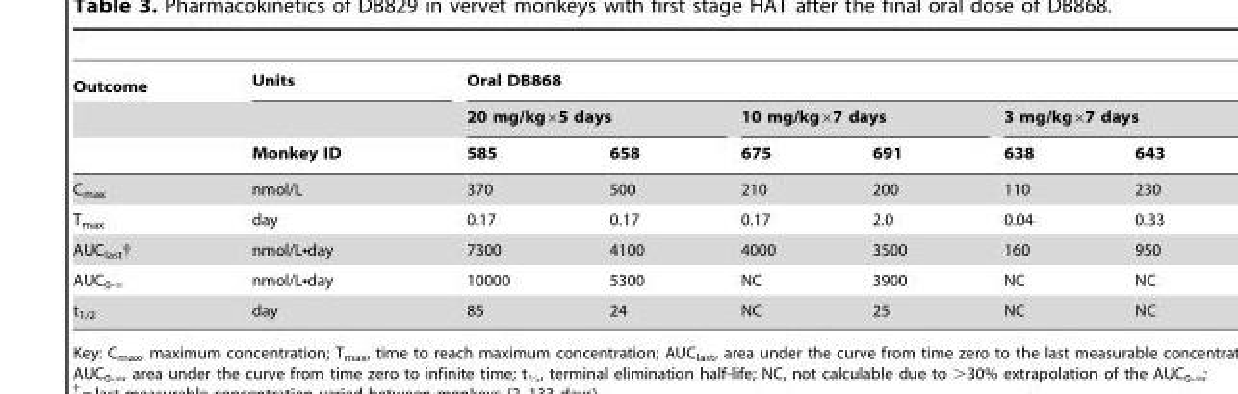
<table><thead><tr><td rowspan="3">Outcome</td><td rowspan="3">Units Monkey ID</td><td colspan="6">Oral DB868</td></tr><tr><td colspan="2">20 mg/kg×5 days</td><td colspan="2">10 mg/kg×7 days</td><td colspan="2">3 mg/kg×7 days</td></tr><tr><td>585</td><td>658</td><td>675</td><td>691</td><td>638</td><td>643</td></tr></thead><tbody><tr><td>C<sub>max</sub></td><td>nmol/L</td><td>370</td><td>500</td><td>210</td><td>200</td><td>110</td><td>230</td></tr><tr><td>T<sub>max</sub></td><td>day</td><td>0.17</td><td>0.17</td><td>0.17</td><td>2.0</td><td>0.04</td><td>0.33</td></tr><tr><td>AUC<sub>last</sub>†</td><td>nmol/L•day</td><td>7300</td><td>4100</td><td>4000</td><td>3500</td><td>160</td><td>950</td></tr><tr><td>AUC0-‘</td><td>nmol/L•day</td><td>10000</td><td>5300</td><td>NC</td><td>3900</td><td>NC</td><td>NC</td></tr><tr><td>t<sub>1/2</sub></td><td>day</td><td>85</td><td>24</td><td>NC</td><td>25</td><td>NC</td><td>NC</td></tr></tbody></table>